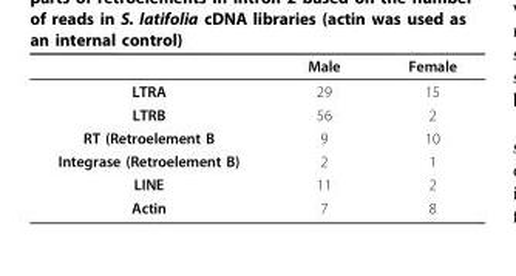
<table><thead><tr><td></td><td>Male</td><td>Female</td></tr></thead><tbody><tr><td>LTRA</td><td>29</td><td>15</td></tr><tr><td>LTRB</td><td>56</td><td>2</td></tr><tr><td>RT (Retroelement B</td><td>9</td><td>10</td></tr><tr><td>Integrase (Retroelement B)</td><td>2</td><td>1</td></tr><tr><td>LINE</td><td>11</td><td>2</td></tr><tr><td>Actin</td><td>7</td><td>8</td></tr></tbody></table>